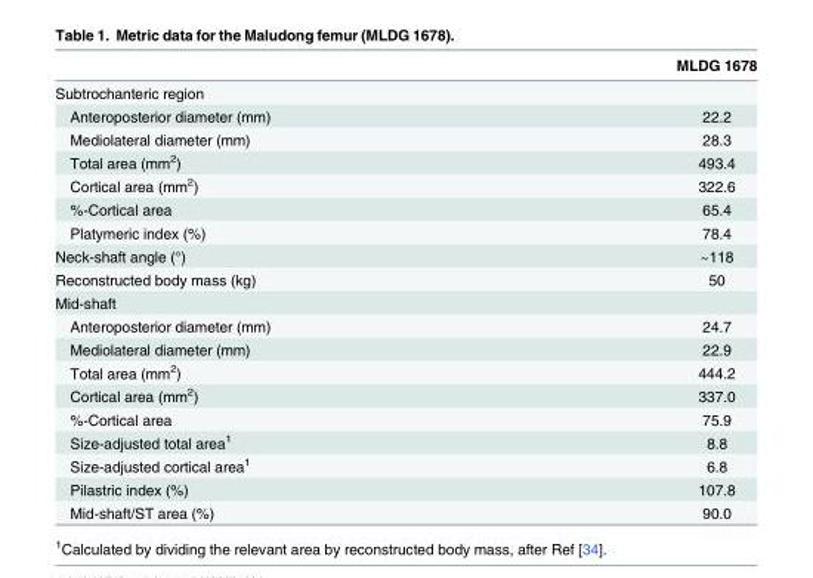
<table><thead><tr><td></td><td>MLDG 1678</td></tr></thead><tbody><tr><td colspan="2">Subtrochanteric region</td></tr><tr><td>Anteroposterior diameter (mm)</td><td>22.2</td></tr><tr><td>Mediolateral diameter (mm)</td><td>28.3</td></tr><tr><td>Total area (mm<sup>2</sup>)</td><td>493.4</td></tr><tr><td>Cortical area (mm<sup>2</sup>)</td><td>322.6</td></tr><tr><td>%-Cortical area</td><td>65.4</td></tr><tr><td>Platymeric index (%)</td><td>78.4</td></tr><tr><td>Neck-shaft angle (°)</td><td>~118</td></tr><tr><td>Reconstructed body mass (kg)</td><td>50</td></tr><tr><td colspan="2">Mid-shaft</td></tr><tr><td>Anteroposterior diameter (mm)</td><td>24.7</td></tr><tr><td>Mediolateral diameter (mm)</td><td>22.9</td></tr><tr><td>Total area (mm<sup>2</sup>)</td><td>444.2</td></tr><tr><td>Cortical area (mm<sup>2</sup>)</td><td>337.0</td></tr><tr><td>%-Cortical area</td><td>75.9</td></tr><tr><td>Size-adjusted total area<sup>1</sup></td><td>8.8</td></tr><tr><td>Size-adjusted cortical area<sup>1</sup></td><td>6.8</td></tr><tr><td>Pilastric index (%)</td><td>107.8</td></tr><tr><td>Mid-shaft/ST area (%)</td><td>90.0</td></tr></tbody></table>